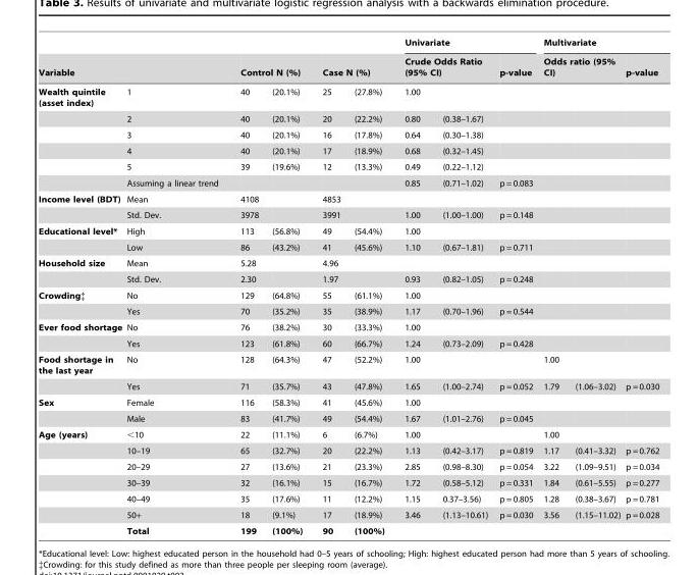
<table><thead><tr><td></td><td></td><td></td><td></td><td></td><td></td><td colspan="3">Univariate</td><td colspan="3">Multivariate</td></tr><tr><td colspan="2">Variable</td><td colspan="2">Control N (%)</td><td colspan="2">Case N (%)</td><td colspan="2">Crude Odds Ratio (95% CI)</td><td rowspan="2">p-value</td><td colspan="2">Odds ratio (95% CI)</td><td rowspan="2">p-value</td></tr><tr><td>Wealth quintile (asset index)</td><td>1</td><td>40</td><td>(20.1%)</td><td>25</td><td>(27.8%)</td><td>1.00</td><td></td><td></td><td></td></tr></thead><tbody><tr><td></td><td>2</td><td>40</td><td>(20.1%)</td><td>20</td><td>(22.2%)</td><td>0.80</td><td>(0.38–1.67)</td><td></td><td></td><td></td><td></td></tr><tr><td></td><td>3</td><td>40</td><td>(20.1%)</td><td>16</td><td>(17.8%)</td><td>0.64</td><td>(0.30–1.38)</td><td></td><td></td><td></td><td></td></tr><tr><td></td><td>4</td><td>40</td><td>(20.1%)</td><td>17</td><td>(18.9%)</td><td>0.68</td><td>(0.32–1.45)</td><td></td><td></td><td></td><td></td></tr><tr><td></td><td>5</td><td>39</td><td>(19.6%)</td><td>12</td><td>(13.3%)</td><td>0.49</td><td>(0.22–1.12)</td><td></td><td></td><td></td><td></td></tr><tr><td></td><td>Assuming a linear trend</td><td></td><td></td><td></td><td></td><td>0.85</td><td>(0.71–1.02)</td><td>p = 0.083</td><td></td><td></td><td></td></tr><tr><td rowspan="2">Income level (BDT)</td><td>Mean</td><td>4108</td><td></td><td>4853</td><td></td><td></td><td></td><td></td><td></td><td></td><td></td></tr><tr><td>Std. Dev.</td><td>3978</td><td></td><td>3991</td><td></td><td>1.00</td><td>(1.00–1.00)</td><td>p = 0.148</td><td></td><td></td><td></td></tr><tr><td rowspan="2">Educational level*</td><td>High</td><td>113</td><td>(56.8%)</td><td>49</td><td>(54.4%)</td><td>1.00</td><td></td><td></td><td></td><td></td><td></td></tr><tr><td>Low</td><td>86</td><td>(43.2%)</td><td>41</td><td>(45.6%)</td><td>1.10</td><td>(0.67–1.81)</td><td>p = 0.711</td><td></td><td></td><td></td></tr><tr><td rowspan="2">Household size</td><td>Mean</td><td>5.28</td><td></td><td>4.96</td><td></td><td></td><td></td><td></td><td></td><td></td><td></td></tr><tr><td>Std. Dev.</td><td>2.30</td><td></td><td>1.97</td><td></td><td>0.93</td><td>(0.82–1.05)</td><td>p = 0.248</td><td></td><td></td><td></td></tr><tr><td rowspan="2">Crowding‡</td><td>No</td><td>129</td><td>(64.8%)</td><td>55</td><td>(61.1%)</td><td>1.00</td><td></td><td></td><td></td><td></td><td></td></tr><tr><td>Yes</td><td>70</td><td>(35.2%)</td><td>35</td><td>(38.9%)</td><td>1.17</td><td>(0.70–1.96)</td><td>p = 0.544</td><td></td><td></td><td></td></tr><tr><td rowspan="2">Ever food shortage</td><td>No</td><td>76</td><td>(38.2%)</td><td>30</td><td>(33.3%)</td><td>1.00</td><td></td><td></td><td></td><td></td><td></td></tr><tr><td>Yes</td><td>123</td><td>(61.8%)</td><td>60</td><td>(66.7%)</td><td>1.24</td><td>(0.73–2.09)</td><td>p = 0.428</td><td></td><td></td><td></td></tr><tr><td rowspan="2">Food shortage in the last year</td><td>No</td><td>128</td><td>(64.3%)</td><td>47</td><td>(52.2%)</td><td>1.00</td><td></td><td></td><td>1.00</td><td></td><td></td></tr><tr><td>Yes</td><td>71</td><td>(35.7%)</td><td>43</td><td>(47.8%)</td><td>1.65</td><td>(1.00–2.74)</td><td>p = 0.052</td><td>1.79</td><td>(1.06–3.02)</td><td>p = 0.030</td></tr><tr><td rowspan="2">Sex</td><td>Female</td><td>116</td><td>(58.3%)</td><td>41</td><td>(45.6%)</td><td>1.00</td><td></td><td></td><td></td><td></td><td></td></tr><tr><td>Male</td><td>83</td><td>(41.7%)</td><td>49</td><td>(54.4%)</td><td>1.67</td><td>(1.01–2.76)</td><td>p = 0.045</td><td></td><td></td><td></td></tr><tr><td rowspan="7">Age (years)</td><td>&lt;10</td><td>22</td><td>(11.1%)</td><td>6</td><td>(6.7%)</td><td>1.00</td><td></td><td></td><td>1.00</td><td></td><td></td></tr><tr><td>10–19</td><td>65</td><td>(32.7%)</td><td>20</td><td>(22.2%)</td><td>1.13</td><td>(0.42–3.17)</td><td>p = 0.819</td><td>1.17</td><td>(0.41–3.32)</td><td>p = 0.762</td></tr><tr><td>20–29</td><td>27</td><td>(13.6%)</td><td>21</td><td>(23.3%)</td><td>2.85</td><td>(0.98–8.30)</td><td>p = 0.054</td><td>3.22</td><td>(1.09–9.51)</td><td>p = 0.034</td></tr><tr><td>30–39</td><td>32</td><td>(16.1%)</td><td>15</td><td>(16.7%)</td><td>1.72</td><td>(0.58–5.12)</td><td>p = 0.331</td><td>1.84</td><td>(0.61–5.55)</td><td>p = 0.277</td></tr><tr><td>40–49</td><td>35</td><td>(17.6%)</td><td>11</td><td>(12.2%)</td><td>1.15</td><td>0.37–3.56)</td><td>p = 0.805</td><td>1.28</td><td>(0.38–3.67)</td><td>p = 0.781</td></tr><tr><td>50+</td><td>18</td><td>(9.1%)</td><td>17</td><td>(18.9%)</td><td>3.46</td><td>(1.13–10.61)</td><td>p = 0.030</td><td>3.56</td><td>(1.15–11.02)</td><td>p = 0.028</td></tr><tr><td>Total</td><td>199</td><td>(100%)</td><td>90</td><td>(100%)</td><td></td><td></td><td></td><td></td><td></td><td></td></tr></tbody></table>